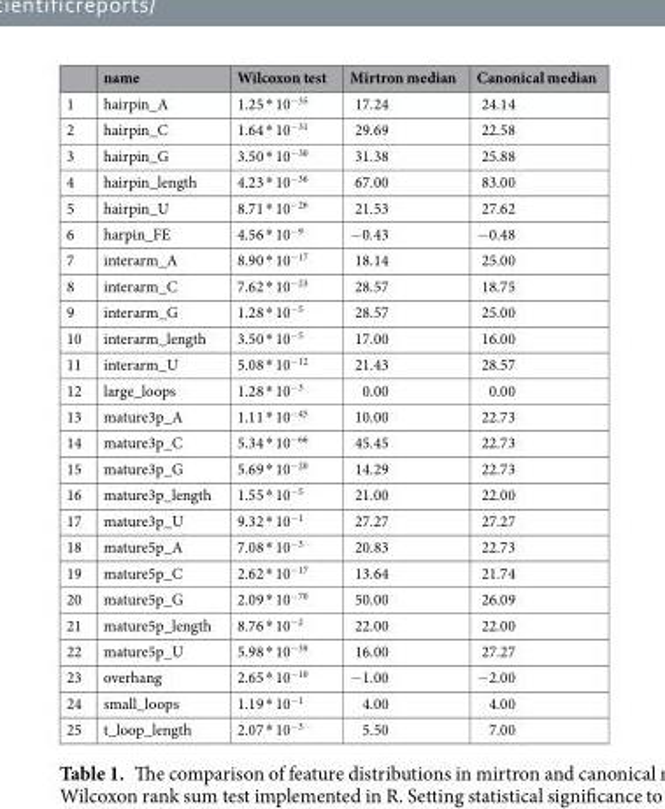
<table><thead><tr><td></td><td>name</td><td>Wilcoxon test</td><td>Mirtron median</td><td>Canonical median</td></tr></thead><tbody><tr><td>1</td><td>hairpin_A</td><td>1.25 * 10<sup>−35</sup></td><td>17.24</td><td>24.14</td></tr><tr><td>2</td><td>hairpin_C</td><td>1.64 * 10<sup>−31</sup></td><td>29.69</td><td>22.58</td></tr><tr><td>3</td><td>hairpin_G</td><td>3.50 * 10<sup>−30</sup></td><td>31.38</td><td>25.88</td></tr><tr><td>4</td><td>hairpin_length</td><td>4.23 * 10<sup>−36</sup></td><td>67.00</td><td>83.00</td></tr><tr><td>5</td><td>hairpin_U</td><td>8.71 * 10<sup>−26</sup></td><td>21.53</td><td>27.62</td></tr><tr><td>6</td><td>harpin_FE</td><td>4.56 * 10<sup>−9</sup></td><td>−0.43</td><td>−0.48</td></tr><tr><td>7</td><td>interarm_A</td><td>8.90 * 10<sup>−17</sup></td><td>18.14</td><td>25.00</td></tr><tr><td>8</td><td>interarm_C</td><td>7.62 * 10<sup>−23</sup></td><td>28.57</td><td>18.75</td></tr><tr><td>9</td><td>interarm_G</td><td>1.28 * 10<sup>−5</sup></td><td>28.57</td><td>25.00</td></tr><tr><td>10</td><td>interarm_length</td><td>3.50 * 10<sup>−5</sup></td><td>17.00</td><td>16.00</td></tr><tr><td>11</td><td>interarm_U</td><td>5.08 * 10<sup>−12</sup></td><td>21.43</td><td>28.57</td></tr><tr><td>12</td><td>large_loops</td><td>1.28 * 10<sup>−3</sup></td><td>0.00</td><td>0.00</td></tr><tr><td>13</td><td>mature3p_A</td><td>1.11 * 10<sup>−45</sup></td><td>10.00</td><td>22.73</td></tr><tr><td>14</td><td>mature3p_C</td><td>5.34 * 10<sup>−66</sup></td><td>45.45</td><td>22.73</td></tr><tr><td>15</td><td>mature3p_G</td><td>5.69 * 10<sup>−20</sup></td><td>14.29</td><td>22.73</td></tr><tr><td>16</td><td>mature3p_length</td><td>1.55 * 10<sup>−5</sup></td><td>21.00</td><td>22.00</td></tr><tr><td>17</td><td>mature3p_U</td><td>9.32 * 10<sup>−1</sup></td><td>27.27</td><td>27.27</td></tr><tr><td>18</td><td>mature5p_A</td><td>7.08 * 10<sup>−3</sup></td><td>20.83</td><td>22.73</td></tr><tr><td>19</td><td>mature5p_C</td><td>2.62 * 10<sup>−17</sup></td><td>13.64</td><td>21.74</td></tr><tr><td>20</td><td>mature5p_G</td><td>2.09 * 10<sup>−70</sup></td><td>50.00</td><td>26.09</td></tr><tr><td>21</td><td>mature5p_length</td><td>8.76 * 10<sup>−2</sup></td><td>22.00</td><td>22.00</td></tr><tr><td>22</td><td>mature5p_U</td><td>5.98 * 10<sup>−39</sup></td><td>16.00</td><td>27.27</td></tr><tr><td>23</td><td>overhang</td><td>2.65 * 10<sup>−10</sup></td><td>−1.00</td><td>−2.00</td></tr><tr><td>24</td><td>small_loops</td><td>1.19 * 10<sup>−1</sup></td><td>4.00</td><td>4.00</td></tr><tr><td>25</td><td>t_loop_length</td><td>2.07 * 10<sup>−3</sup></td><td>5.50</td><td>7.00</td></tr></tbody></table>